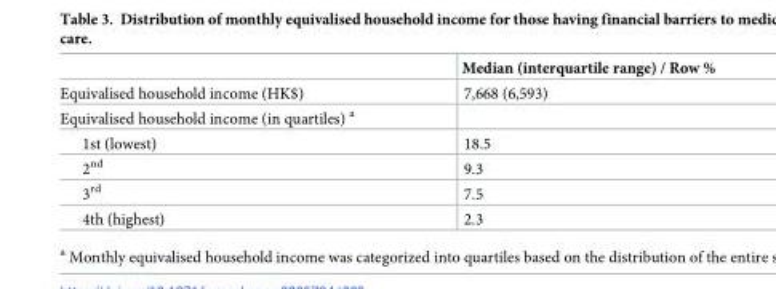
<table><thead><tr><td></td><td>Median (interquartile range) / Row %</td></tr></thead><tbody><tr><td>Equivalised household income (HK$)</td><td>7,668 (6,593)</td></tr><tr><td colspan="2">Equivalised household income (in quartiles) <sup>a</sup></td></tr><tr><td>1st (lowest)</td><td>18.5</td></tr><tr><td>2<sup>nd</sup></td><td>9.3</td></tr><tr><td>3<sup>rd</sup></td><td>7.5</td></tr><tr><td>4th (highest)</td><td>2.3</td></tr></tbody></table>